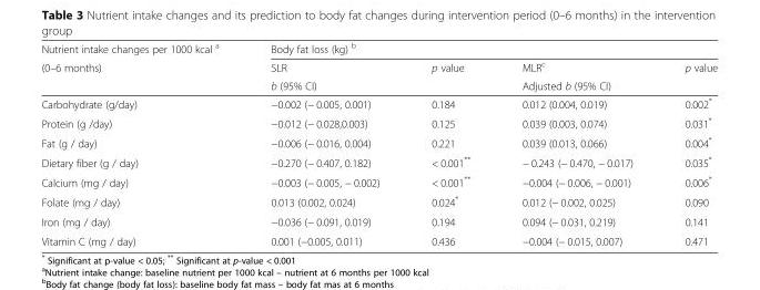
<table><thead><tr><td rowspan="3">Nutrient intake changes per 1000 kcal <sup>a</sup> (0–6 months)</td><td colspan="4">Body fat loss (kg) <sup>b</sup></td></tr><tr><td rowspan="2">SLR b (95% CI)</td><td rowspan="2">p value</td><td rowspan="2">MLR<sup>c</sup> Adjusted b (95% CI)</td><td rowspan="2">p value</td></tr><tr></tr></thead><tbody><tr><td>Carbohydrate (g/day)</td><td>−0.002 (− 0.005, 0.001)</td><td>0.184</td><td>0.012 (0.004, 0.019)</td><td>0.002*</td></tr><tr><td>Protein (g /day)</td><td>−0.012 (− 0.028,0.003)</td><td>0.125</td><td>0.039 (0.003, 0.074)</td><td>0.031*</td></tr><tr><td>Fat (g / day)</td><td>−0.006 (− 0.016, 0.004)</td><td>0.221</td><td>0.039 (0.013, 0.066)</td><td>0.004*</td></tr><tr><td>Dietary fiber (g / day)</td><td>−0.270 (− 0.407, 0.182)</td><td>&lt; 0.001**</td><td>− 0.243 (− 0.470, − 0.017)</td><td>0.035*</td></tr><tr><td>Calcium (mg / day)</td><td>−0.003 (− 0.005, − 0.002)</td><td>&lt; 0.001**</td><td>−0.004 (− 0.006, − 0.001)</td><td>0.006*</td></tr><tr><td>Folate (mg / day)</td><td>0.013 (0.002, 0.024)</td><td>0.024*</td><td>0.012 (− 0.002, 0.025)</td><td>0.090</td></tr><tr><td>Iron (mg / day)</td><td>−0.036 (− 0.091, 0.019)</td><td>0.194</td><td>0.094 (− 0.031, 0.219)</td><td>0.141</td></tr><tr><td>Vitamin C (mg / day)</td><td>0.001 (−0.005, 0.011)</td><td>0.436</td><td>−0.004 (− 0.015, 0.007)</td><td>0.471</td></tr></tbody></table>